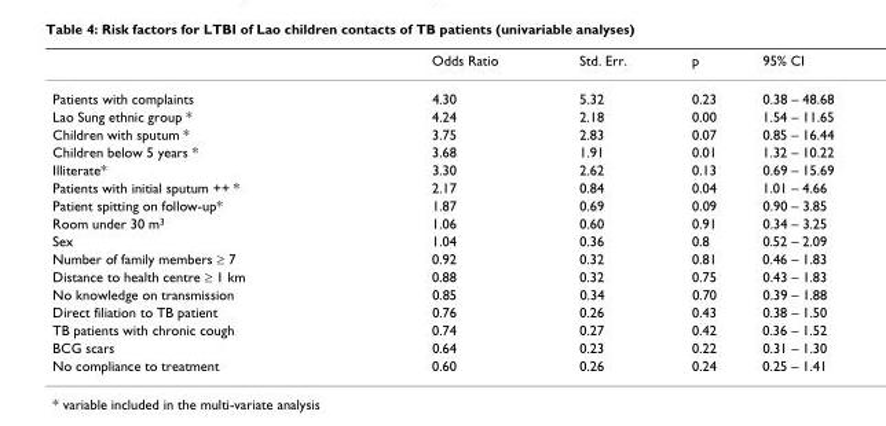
<table><thead><tr><td></td><td>Odds Ratio</td><td>Std. Err.</td><td>p</td><td>95% CI</td></tr></thead><tbody><tr><td>Patients with complaints</td><td>4.30</td><td>5.32</td><td>0.23</td><td>0.38 – 48.68</td></tr><tr><td>Lao Sung ethnic group *</td><td>4.24</td><td>2.18</td><td>0.00</td><td>1.54 – 11.65</td></tr><tr><td>Children with sputum *</td><td>3.75</td><td>2.83</td><td>0.07</td><td>0.85 – 16.44</td></tr><tr><td>Children below 5 years *</td><td>3.68</td><td>1.91</td><td>0.01</td><td>1.32 – 10.22</td></tr><tr><td>Illiterate*</td><td>3.30</td><td>2.62</td><td>0.13</td><td>0.69 – 15.69</td></tr><tr><td>Patients with initial sputum ++ *</td><td>2.17</td><td>0.84</td><td>0.04</td><td>1.01 – 4.66</td></tr><tr><td>Patient spitting on follow-up*</td><td>1.87</td><td>0.69</td><td>0.09</td><td>0.90 – 3.85</td></tr><tr><td>Room under 30 m<sup>3</sup></td><td>1.06</td><td>0.60</td><td>0.91</td><td>0.34 – 3.25</td></tr><tr><td>Sex</td><td>1.04</td><td>0.36</td><td>0.8</td><td>0.52 – 2.09</td></tr><tr><td>Number of family members ≥ 7</td><td>0.92</td><td>0.32</td><td>0.81</td><td>0.46 – 1.83</td></tr><tr><td>Distance to health centre ≥ 1 km</td><td>0.88</td><td>0.32</td><td>0.75</td><td>0.43 – 1.83</td></tr><tr><td>No knowledge on transmission</td><td>0.85</td><td>0.34</td><td>0.70</td><td>0.39 – 1.88</td></tr><tr><td>Direct filiation to TB patient</td><td>0.76</td><td>0.26</td><td>0.43</td><td>0.38 – 1.50</td></tr><tr><td>TB patients with chronic cough</td><td>0.74</td><td>0.27</td><td>0.42</td><td>0.36 – 1.52</td></tr><tr><td>BCG scars</td><td>0.64</td><td>0.23</td><td>0.22</td><td>0.31 – 1.30</td></tr><tr><td>No compliance to treatment</td><td>0.60</td><td>0.26</td><td>0.24</td><td>0.25 – 1.41</td></tr></tbody></table>